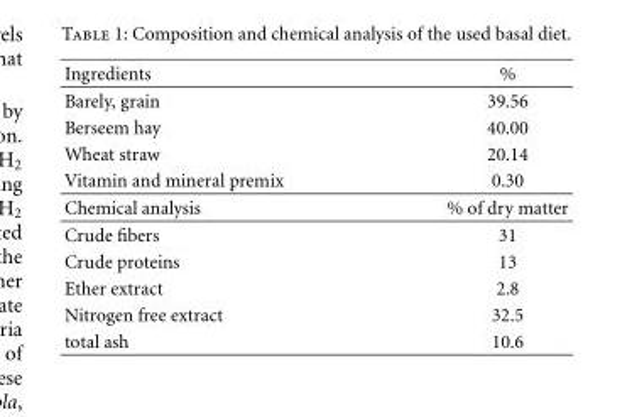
<table><thead><tr><td>Ingredients</td><td>%</td></tr></thead><tbody><tr><td>Barely, grain</td><td>39.56</td></tr><tr><td>Berseem hay</td><td>40.00</td></tr><tr><td>Wheat straw</td><td>20.14</td></tr><tr><td>Vitamin and mineral premix</td><td>0.30</td></tr><tr><td>Chemical analysis</td><td>% of dry matter</td></tr><tr><td>Crude fibers</td><td>31</td></tr><tr><td>Crude proteins</td><td>13</td></tr><tr><td>Ether extract</td><td>2.8</td></tr><tr><td>Nitrogen free extract</td><td>32.5</td></tr><tr><td>total ash</td><td>10.6</td></tr></tbody></table>